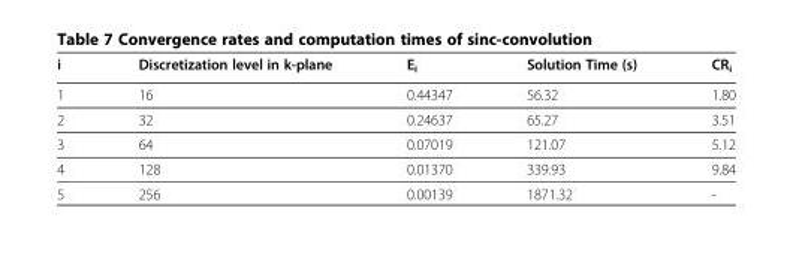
<table><thead><tr><td>i</td><td>Discretization level in k-plane</td><td>E<sub>i</sub></td><td>Solution Time (s)</td><td>CR<sub>i</sub></td></tr></thead><tbody><tr><td>1</td><td>16</td><td>0.44347</td><td>56.32</td><td>1.80</td></tr><tr><td>2</td><td>32</td><td>0.24637</td><td>65.27</td><td>3.51</td></tr><tr><td>3</td><td>64</td><td>0.07019</td><td>121.07</td><td>5.12</td></tr><tr><td>4</td><td>128</td><td>0.01370</td><td>339.93</td><td>9.84</td></tr><tr><td>5</td><td>256</td><td>0.00139</td><td>1871.32</td><td>-</td></tr></tbody></table>